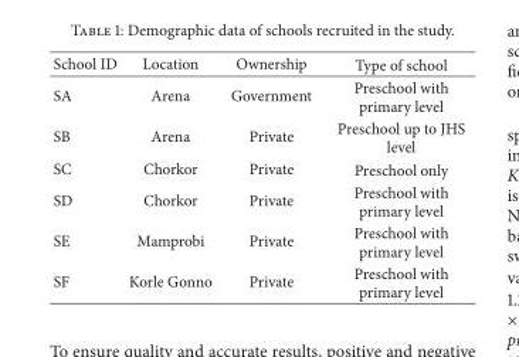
<table><thead><tr><td>School ID</td><td>Location</td><td>Ownership</td><td>Type of school</td></tr></thead><tbody><tr><td>SA</td><td>Arena</td><td>Government</td><td>Preschool with primary level</td></tr><tr><td>SB</td><td>Arena</td><td>Private</td><td>Preschool up to JHS level</td></tr><tr><td>SC</td><td>Chorkor</td><td>Private</td><td>Preschool only</td></tr><tr><td>SD</td><td>Chorkor</td><td>Private</td><td>Preschool with primary level</td></tr><tr><td>SE</td><td>Mamprobi</td><td>Private</td><td>Preschool with primary level</td></tr><tr><td>SF</td><td>Korle Gonno</td><td>Private</td><td>Preschool with primary level</td></tr></tbody></table>